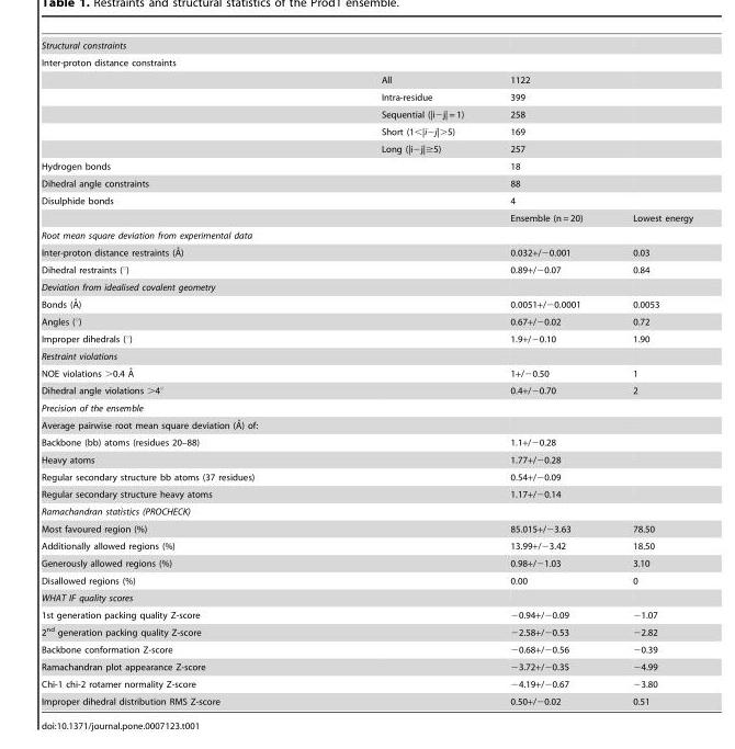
<table><tbody><tr><td colspan="4">Structural constraints</td></tr><tr><td colspan="4">Inter-proton distance constraints</td></tr><tr><td></td><td>All</td><td>1122</td><td></td></tr><tr><td></td><td>Intra-residue</td><td>399</td><td></td></tr><tr><td></td><td>Sequential (|i−j| = 1)</td><td>258</td><td></td></tr><tr><td></td><td>Short (1&lt;|i−j|&gt;5)</td><td>169</td><td></td></tr><tr><td></td><td>Long (|i−j|≥5)</td><td>257</td><td></td></tr><tr><td>Hydrogen bonds</td><td></td><td>18</td><td></td></tr><tr><td>Dihedral angle constraints</td><td></td><td>88</td><td></td></tr><tr><td rowspan="2">Disulphide bonds</td><td></td><td>4</td><td></td></tr><tr><td></td><td>Ensemble (n = 20)</td><td>Lowest energy</td></tr><tr><td colspan="4">Root mean square deviation from experimental data</td></tr><tr><td>Inter-proton distance restraints (A˚)</td><td></td><td>0.032+/−0.001</td><td>0.03</td></tr><tr><td>Dihedral restraints (°)</td><td></td><td>0.89+/−0.07</td><td>0.84</td></tr><tr><td colspan="4">Deviation from idealised covalent geometry</td></tr><tr><td>Bonds (A˚)</td><td></td><td>0.0051+/−0.0001</td><td>0.0053</td></tr><tr><td>Angles (°)</td><td></td><td>0.67+/−0.02</td><td>0.72</td></tr><tr><td>Improper dihedrals (°)</td><td></td><td>1.9+/−0.10</td><td>1.90</td></tr><tr><td colspan="4">Restraint violations</td></tr><tr><td>NOE violations .0.4 A˚</td><td></td><td>1+/−0.50</td><td>1</td></tr><tr><td>Dihedral angle violations &gt;4°</td><td></td><td>0.4+/−0.70</td><td>2</td></tr><tr><td colspan="4">Precision of the ensemble</td></tr><tr><td colspan="4">Average pairwise root mean square deviation (A˚) of:</td></tr><tr><td>Backbone (bb) atoms (residues 20–88)</td><td></td><td>1.1+/−0.28</td><td></td></tr><tr><td>Heavy atoms</td><td></td><td>1.77+/−0.28</td><td></td></tr><tr><td>Regular secondary structure bb atoms (37 residues)</td><td></td><td>0.54+/−0.09</td><td></td></tr><tr><td>Regular secondary structure heavy atoms</td><td></td><td>1.17+/−0.14</td><td></td></tr><tr><td colspan="4">Ramachandran statistics (PROCHECK)</td></tr><tr><td>Most favoured region (%)</td><td></td><td>85.015+/−3.63</td><td>78.50</td></tr><tr><td>Additionally allowed regions (%)</td><td></td><td>13.99+/−3.42</td><td>18.50</td></tr><tr><td>Generously allowed regions (%)</td><td></td><td>0.98+/−1.03</td><td>3.10</td></tr><tr><td>Disallowed regions (%)</td><td></td><td>0.00</td><td>0</td></tr><tr><td colspan="4">WHAT IF quality scores</td></tr><tr><td>1st generation packing quality Z-score</td><td></td><td>−0.94+/−0.09</td><td>−1.07</td></tr><tr><td>2<sup>nd</sup> generation packing quality Z-score</td><td></td><td>−2.58+/−0.53</td><td>−2.82</td></tr><tr><td>Backbone conformation Z-score</td><td></td><td>−0.68+/−0.56</td><td>−0.39</td></tr><tr><td>Ramachandran plot appearance Z-score</td><td></td><td>−3.72+/−0.35</td><td>−4.99</td></tr><tr><td>Chi-1 chi-2 rotamer normality Z-score</td><td></td><td>−4.19+/−0.67</td><td>−3.80</td></tr><tr><td>Improper dihedral distribution RMS Z-score</td><td></td><td>0.50+/−0.02</td><td>0.51</td></tr></tbody></table>